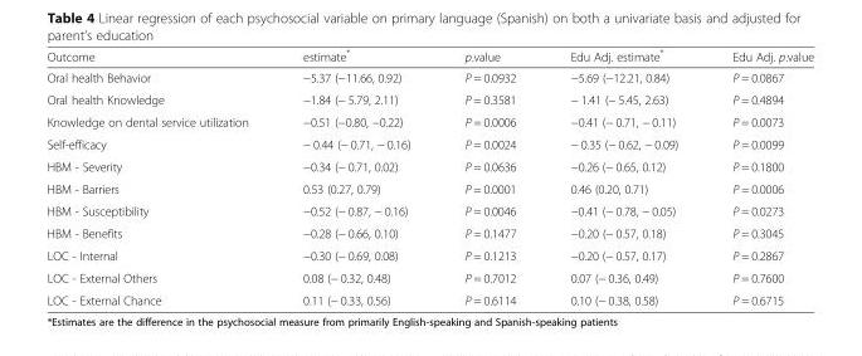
<table><thead><tr><td>Outcome</td><td>estimate*</td><td>p.value</td><td>Edu Adj. estimate*</td><td>Edu Adj. p.value</td></tr></thead><tbody><tr><td>Oral health Behavior</td><td>−5.37 (−11.66, 0.92)</td><td>P = 0.0932</td><td>−5.69 (−12.21, 0.84)</td><td>P = 0.0867</td></tr><tr><td>Oral health Knowledge</td><td>−1.84 (− 5.79, 2.11)</td><td>P = 0.3581</td><td>− 1.41 (− 5.45, 2.63)</td><td>P = 0.4894</td></tr><tr><td>Knowledge on dental service utilization</td><td>−0.51 (−0.80, −0.22)</td><td>P = 0.0006</td><td>−0.41 (− 0.71, − 0.11)</td><td>P = 0.0073</td></tr><tr><td>Self-efficacy</td><td>− 0.44 (− 0.71, − 0.16)</td><td>P = 0.0024</td><td>− 0.35 (− 0.62, − 0.09)</td><td>P = 0.0099</td></tr><tr><td>HBM - Severity</td><td>−0.34 (− 0.71, 0.02)</td><td>P = 0.0636</td><td>−0.26 (− 0.65, 0.12)</td><td>P = 0.1800</td></tr><tr><td>HBM - Barriers</td><td>0.53 (0.27, 0.79)</td><td>P = 0.0001</td><td>0.46 (0.20, 0.71)</td><td>P = 0.0006</td></tr><tr><td>HBM - Susceptibility</td><td>−0.52 (− 0.87, − 0.16)</td><td>P = 0.0046</td><td>−0.41 (− 0.78, − 0.05)</td><td>P = 0.0273</td></tr><tr><td>HBM - Benefits</td><td>−0.28 (− 0.66, 0.10)</td><td>P = 0.1477</td><td>−0.20 (− 0.57, 0.18)</td><td>P = 0.3045</td></tr><tr><td>LOC - Internal</td><td>−0.30 (− 0.69, 0.08)</td><td>P = 0.1213</td><td>−0.20 (− 0.57, 0.17)</td><td>P = 0.2867</td></tr><tr><td>LOC - External Others</td><td>0.08 (− 0.32, 0.48)</td><td>P = 0.7012</td><td>0.07 (− 0.36, 0.49)</td><td>P = 0.7600</td></tr><tr><td>LOC - External Chance</td><td>0.11 (− 0.33, 0.56)</td><td>P = 0.6114</td><td>0.10 (− 0.38, 0.58)</td><td>P = 0.6715</td></tr></tbody></table>